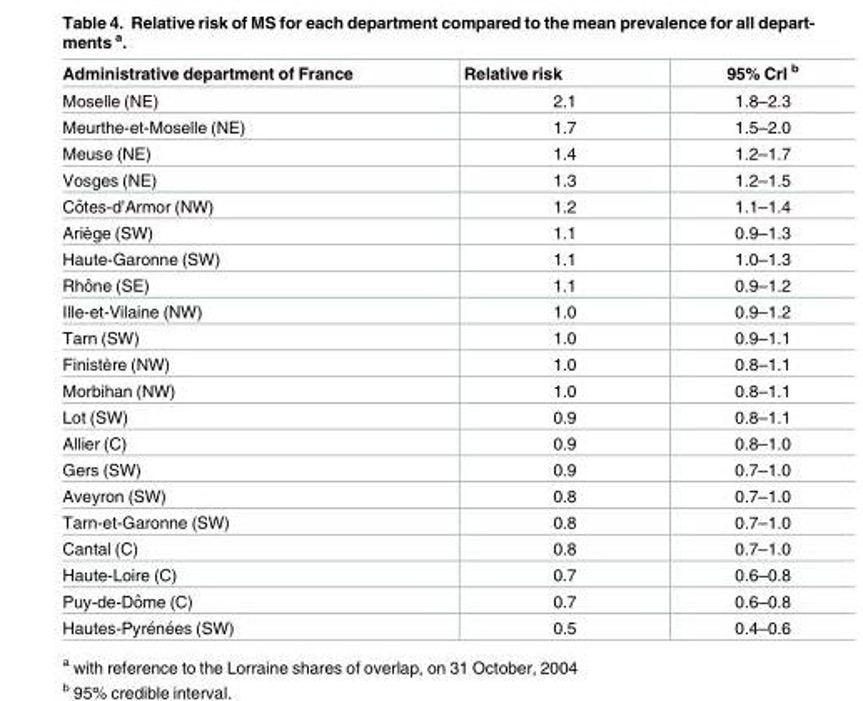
<table><thead><tr><td>Administrative department of France</td><td>Relative risk</td><td>95% CrI <sup>b</sup></td></tr></thead><tbody><tr><td>Moselle (NE)</td><td>2.1</td><td>1.8–2.3</td></tr><tr><td>Meurthe-et-Moselle (NE)</td><td>1.7</td><td>1.5–2.0</td></tr><tr><td>Meuse (NE)</td><td>1.4</td><td>1.2–1.7</td></tr><tr><td>Vosges (NE)</td><td>1.3</td><td>1.2–1.5</td></tr><tr><td>Coˆtes-d’Armor (NW)</td><td>1.2</td><td>1.1–1.4</td></tr><tr><td>Ariège (SW)</td><td>1.1</td><td>0.9–1.3</td></tr><tr><td>Haute-Garonne (SW)</td><td>1.1</td><td>1.0–1.3</td></tr><tr><td>Rhoˆne (SE)</td><td>1.1</td><td>0.9–1.2</td></tr><tr><td>Ille-et-Vilaine (NW)</td><td>1.0</td><td>0.9–1.2</td></tr><tr><td>Tarn (SW)</td><td>1.0</td><td>0.9–1.1</td></tr><tr><td>Finistère (NW)</td><td>1.0</td><td>0.8–1.1</td></tr><tr><td>Morbihan (NW)</td><td>1.0</td><td>0.8–1.1</td></tr><tr><td>Lot (SW)</td><td>0.9</td><td>0.8–1.1</td></tr><tr><td>Allier (C)</td><td>0.9</td><td>0.8–1.0</td></tr><tr><td>Gers (SW)</td><td>0.9</td><td>0.7–1.0</td></tr><tr><td>Aveyron (SW)</td><td>0.8</td><td>0.7–1.0</td></tr><tr><td>Tarn-et-Garonne (SW)</td><td>0.8</td><td>0.7–1.0</td></tr><tr><td>Cantal (C)</td><td>0.8</td><td>0.7–1.0</td></tr><tr><td>Haute-Loire (C)</td><td>0.7</td><td>0.6–0.8</td></tr><tr><td>Puy-de-Doˆme (C)</td><td>0.7</td><td>0.6–0.8</td></tr><tr><td>Hautes-Pyre´ne´es (SW)</td><td>0.5</td><td>0.4–0.6</td></tr></tbody></table>